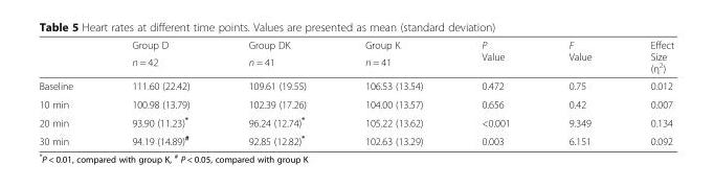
<table><thead><tr><td rowspan="2"></td><td rowspan="2">Group D n = 42</td><td rowspan="2">Group DK n = 41</td><td rowspan="2">Group K n = 41</td><td rowspan="2">P Value</td><td rowspan="2">F Value</td><td rowspan="2">Effect Size (η<sup>2</sup>)</td></tr><tr></tr></thead><tbody><tr><td>Baseline</td><td>111.60 (22.42)</td><td>109.61 (19.55)</td><td>106.53 (13.54)</td><td>0.472</td><td>0.75</td><td>0.012</td></tr><tr><td>10 min</td><td>100.98 (13.79)</td><td>102.39 (17.26)</td><td>104.00 (13.57)</td><td>0.656</td><td>0.42</td><td>0.007</td></tr><tr><td>20 min</td><td>93.90 (11.23)*</td><td>96.24 (12.74)*</td><td>105.22 (13.62)</td><td>&lt;0.001</td><td>9.349</td><td>0.134</td></tr><tr><td>30 min</td><td>94.19 (14.89)<sup>#</sup></td><td>92.85 (12.82)*</td><td>102.63 (13.29)</td><td>0.003</td><td>6.151</td><td>0.092</td></tr></tbody></table>